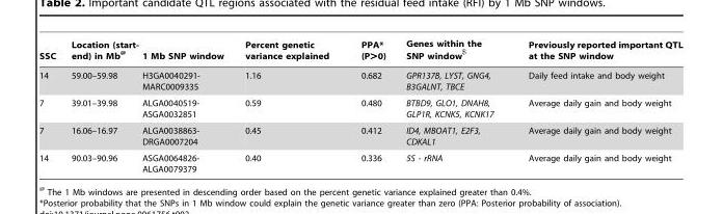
<table><thead><tr><td>SSC</td><td>Location (start- end) in Mb@</td><td>1 Mb SNP window</td><td>Percent genetic variance explained</td><td>PPA* (P&gt;0)</td><td>Genes within the SNP window<sup>$</sup></td><td>Previously reported important QTL at the SNP window</td></tr></thead><tbody><tr><td>14</td><td>59.00–59.98</td><td>H3GA0040291- MARC0009335</td><td>1.16</td><td>0.682</td><td>GPR137B, LYST, GNG4, B3GALNT, TBCE</td><td>Daily feed intake and body weight</td></tr><tr><td>7</td><td>39.01–39.98</td><td>ALGA0040519- ASGA0032851</td><td>0.59</td><td>0.480</td><td>BTBD9, GLO1, DNAH8, GLP1R, KCNK5, KCNK17</td><td>Average daily gain and body weight</td></tr><tr><td>7</td><td>16.06–16.97</td><td>ALGA0038863- DRGA0007204</td><td>0.45</td><td>0.412</td><td>ID4, MBOAT1, E2F3, CDKAL1</td><td>Average daily gain and body weight</td></tr><tr><td>14</td><td>90.03–90.96</td><td>ASGA0064826- ALGA0079379</td><td>0.40</td><td>0.336</td><td>5S - rRNA</td><td>Average daily gain and body weight</td></tr></tbody></table>